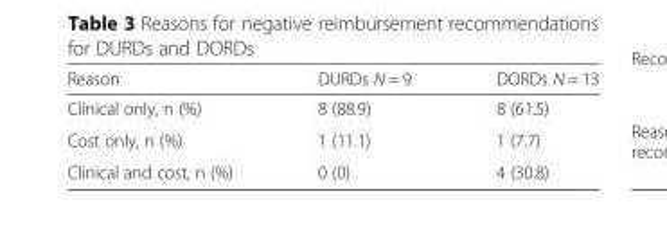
<table><thead><tr><td>Reason</td><td>DURDs N = 9</td><td>DORDs N = 13</td></tr></thead><tbody><tr><td>Clinical only, n (%)</td><td>8 (88.9)</td><td>8 (61.5)</td></tr><tr><td>Cost only, n (%)</td><td>1 (11.1)</td><td>1 (7.7)</td></tr><tr><td>Clinical and cost, n (%)</td><td>0 (0)</td><td>4 (30.8)</td></tr></tbody></table>